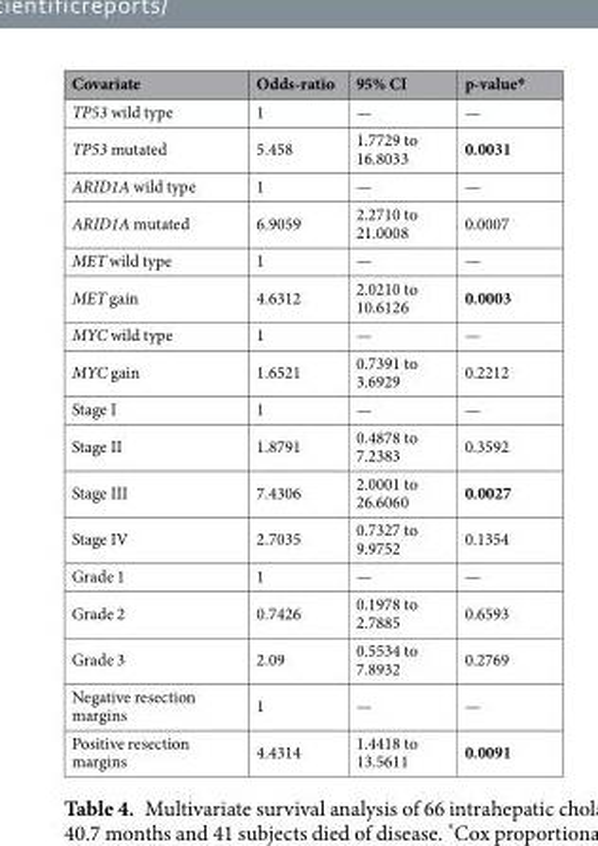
<table><thead><tr><td>Covariate</td><td>Odds-ratio</td><td>95% CI</td><td>p-value*</td></tr></thead><tbody><tr><td>TP53 wild type</td><td>1</td><td>—</td><td>—</td></tr><tr><td>TP53 mutated</td><td>5.458</td><td>1.7729 to 16.8033</td><td>0.0031</td></tr><tr><td>ARID1A wild type</td><td>1</td><td>—</td><td>—</td></tr><tr><td>ARID1A mutated</td><td>6.9059</td><td>2.2710 to 21.0008</td><td>0.0007</td></tr><tr><td>MET wild type</td><td>1</td><td>—</td><td>—</td></tr><tr><td>MET gain</td><td>4.6312</td><td>2.0210 to 10.6126</td><td>0.0003</td></tr><tr><td>MYC wild type</td><td>1</td><td>—</td><td>—</td></tr><tr><td>MYC gain</td><td>1.6521</td><td>0.7391 to 3.6929</td><td>0.2212</td></tr><tr><td>Stage I</td><td>1</td><td>—</td><td>—</td></tr><tr><td>Stage II</td><td>1.8791</td><td>0.4878 to 7.2383</td><td>0.3592</td></tr><tr><td>Stage III</td><td>7.4306</td><td>2.0001 to 26.6060</td><td>0.0027</td></tr><tr><td>Stage IV</td><td>2.7035</td><td>0.7327 to 9.9752</td><td>0.1354</td></tr><tr><td>Grade 1</td><td>1</td><td>—</td><td>—</td></tr><tr><td>Grade 2</td><td>0.7426</td><td>0.1978 to 2.7885</td><td>0.6593</td></tr><tr><td>Grade 3</td><td>2.09</td><td>0.5534 to 7.8932</td><td>0.2769</td></tr><tr><td>Negative resection margins</td><td>1</td><td>—</td><td>—</td></tr><tr><td>Positive resection margins</td><td>4.4314</td><td>1.4418 to 13.5611</td><td>0.0091</td></tr></tbody></table>